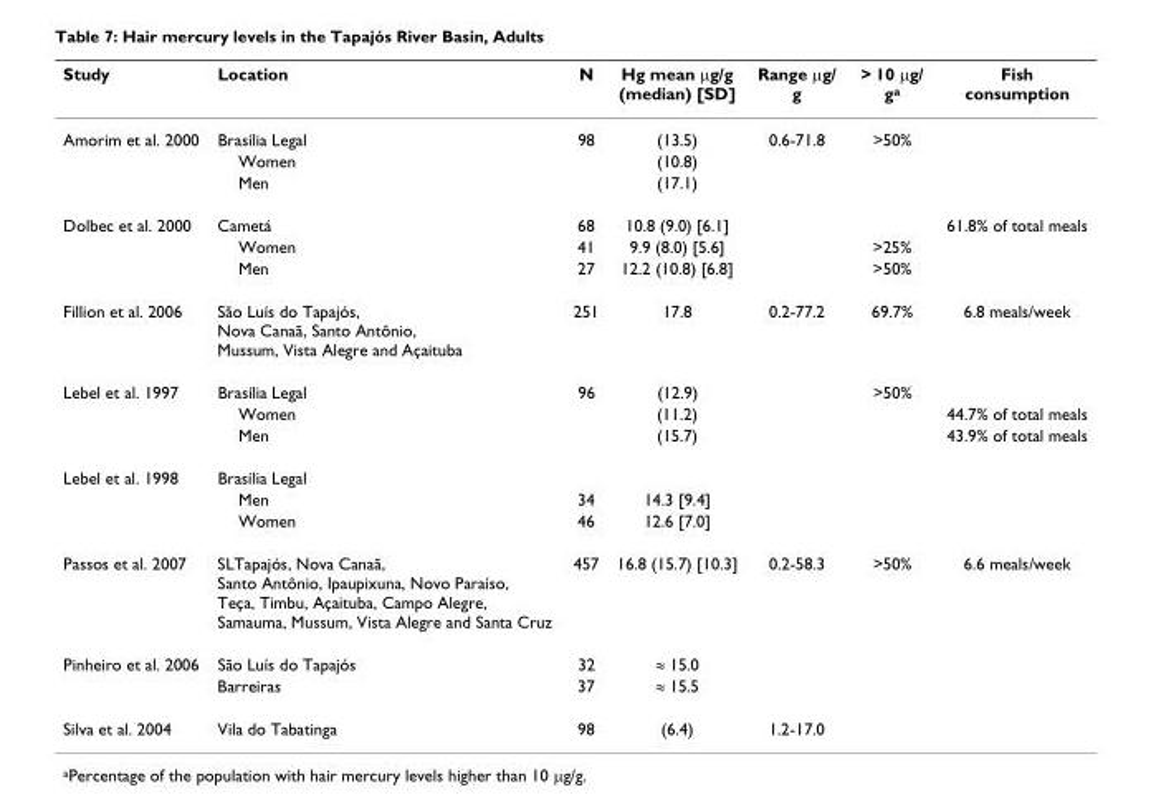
<table><thead><tr><td>Study</td><td>Location</td><td>N</td><td>Hg mean μg/g (median) [SD]</td><td>Range μg/ g</td><td>&gt; 10 μg/ g<sup>a</sup></td><td>Fish consumption</td></tr></thead><tbody><tr><td rowspan="3">Amorim et al. 2000</td><td>Brasília Legal</td><td>98</td><td>(13.5)</td><td>0.6-71.8</td><td>&gt;50%</td><td></td></tr><tr><td>Women</td><td></td><td>(10.8)</td><td></td><td></td><td></td></tr><tr><td>Men</td><td></td><td>(17.1)</td><td></td><td></td><td></td></tr><tr><td rowspan="3">Dolbec et al. 2000</td><td>Cametá</td><td>68</td><td>10.8 (9.0) [6.1]</td><td></td><td></td><td>61.8% of total meals</td></tr><tr><td>Women</td><td>41</td><td>9.9 (8.0) [5.6]</td><td></td><td>&gt;25%</td><td></td></tr><tr><td>Men</td><td>27</td><td>12.2 (10.8) [6.8]</td><td></td><td>&gt;50%</td><td></td></tr><tr><td>Fillion et al. 2006</td><td>São Luís do Tapajós, Nova Canaã, Santo Antônio, Mussum, Vista Alegre and Açaituba</td><td>251</td><td>17.8</td><td>0.2-77.2</td><td>69.7%</td><td>6.8 meals/week</td></tr><tr><td rowspan="3">Lebel et al. 1997</td><td>Brasília Legal</td><td>96</td><td>(12.9)</td><td></td><td>&gt;50%</td><td></td></tr><tr><td>Women</td><td></td><td>(11.2)</td><td></td><td></td><td>44.7% of total meals</td></tr><tr><td>Men</td><td></td><td>(15.7)</td><td></td><td></td><td>43.9% of total meals</td></tr><tr><td rowspan="3">Lebel et al. 1998</td><td>Brasília Legal</td><td></td><td></td><td></td><td></td><td></td></tr><tr><td>Men</td><td>34</td><td>14.3 [9.4]</td><td></td><td></td><td></td></tr><tr><td>Women</td><td>46</td><td>12.6 [7.0]</td><td></td><td></td><td></td></tr><tr><td>Passos et al. 2007</td><td>SLTapajós, Nova Canaã, Santo Antônio, Ipaupixuna, Novo Paraíso, Teça, Timbu, Açaituba, Campo Alegre, Samauma, Mussum, Vista Alegre and Santa Cruz</td><td>457</td><td>16.8 (15.7) [10.3]</td><td>0.2-58.3</td><td>&gt;50%</td><td>6.6 meals/week</td></tr><tr><td rowspan="2">Pinheiro et al. 2006</td><td>São Luís do Tapajós</td><td>32</td><td>≈ 15.0</td><td></td><td></td><td></td></tr><tr><td>Barreiras</td><td>37</td><td>≈ 15.5</td><td></td><td></td><td></td></tr><tr><td>Silva et al. 2004</td><td>Vila do Tabatinga</td><td>98</td><td>(6.4)</td><td>1.2-17.0</td><td></td><td></td></tr></tbody></table>